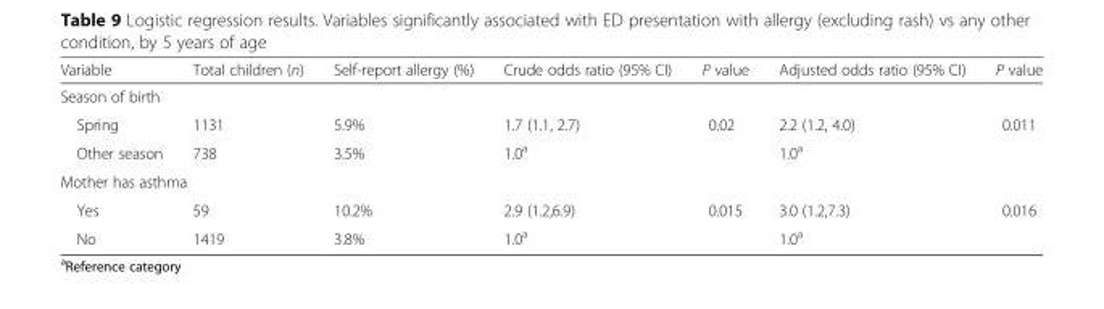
<table><thead><tr><td>Variable</td><td>Total children (n)</td><td>Self-report allergy (%)</td><td>Crude odds ratio (95% CI)</td><td>P value</td><td>Adjusted odds ratio (95% CI)</td><td>P value</td></tr></thead><tbody><tr><td colspan="7">Season of birth</td></tr><tr><td>Spring</td><td>1131</td><td>5.9%</td><td>1.7 (1.1, 2.7)</td><td>0.02</td><td>2.2 (1.2, 4.0)</td><td>0.011</td></tr><tr><td>Other season</td><td>738</td><td>3.5%</td><td>1.0<sup>a</sup></td><td></td><td>1.0<sup>a</sup></td><td></td></tr><tr><td colspan="7">Mother has asthma</td></tr><tr><td>Yes</td><td>59</td><td>10.2%</td><td>2.9 (1.2,6.9)</td><td>0.015</td><td>3.0 (1.2,7.3)</td><td>0.016</td></tr><tr><td>No</td><td>1419</td><td>3.8%</td><td>1.0<sup>a</sup></td><td></td><td>1.0<sup>a</sup></td><td></td></tr></tbody></table>